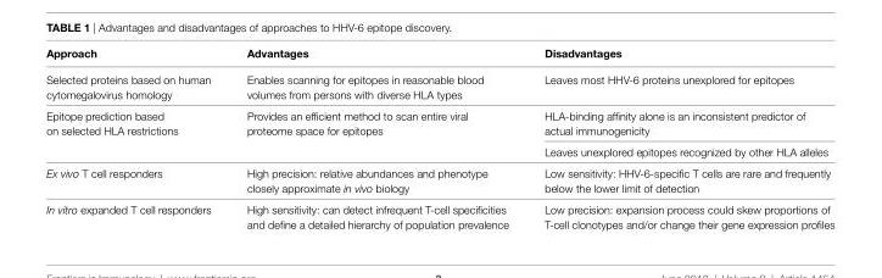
<table><thead><tr><td>Approach</td><td>Advantages</td><td>Disadvantages</td></tr></thead><tbody><tr><td>Selected proteins based on human cytomegalovirus homology</td><td>Enables scanning for epitopes in reasonable blood volumes from persons with diverse HLA types</td><td>Leaves most HHV-6 proteins unexplored for epitopes</td></tr><tr><td rowspan="2">Epitope prediction based on selected HLA restrictions</td><td rowspan="2">Provides an efficient method to scan entire viral proteome space for epitopes</td><td>HLA-binding affinity alone is an inconsistent predictor of actual immunogenicity</td></tr><tr><td>Leaves unexplored epitopes recognized by other HLA alleles</td></tr><tr><td>Ex vivo T cell responders</td><td>High precision: relative abundances and phenotype closely approximate in vivo biology</td><td>Low sensitivity: HHV-6-specific T cells are rare and frequently below the lower limit of detection</td></tr><tr><td>In vitro expanded T cell responders</td><td>High sensitivity: can detect infrequent T-cell specificities and define a detailed hierarchy of population prevalence</td><td>Low precision: expansion process could skew proportions of T-cell clonotypes and/or change their gene expression profiles</td></tr></tbody></table>